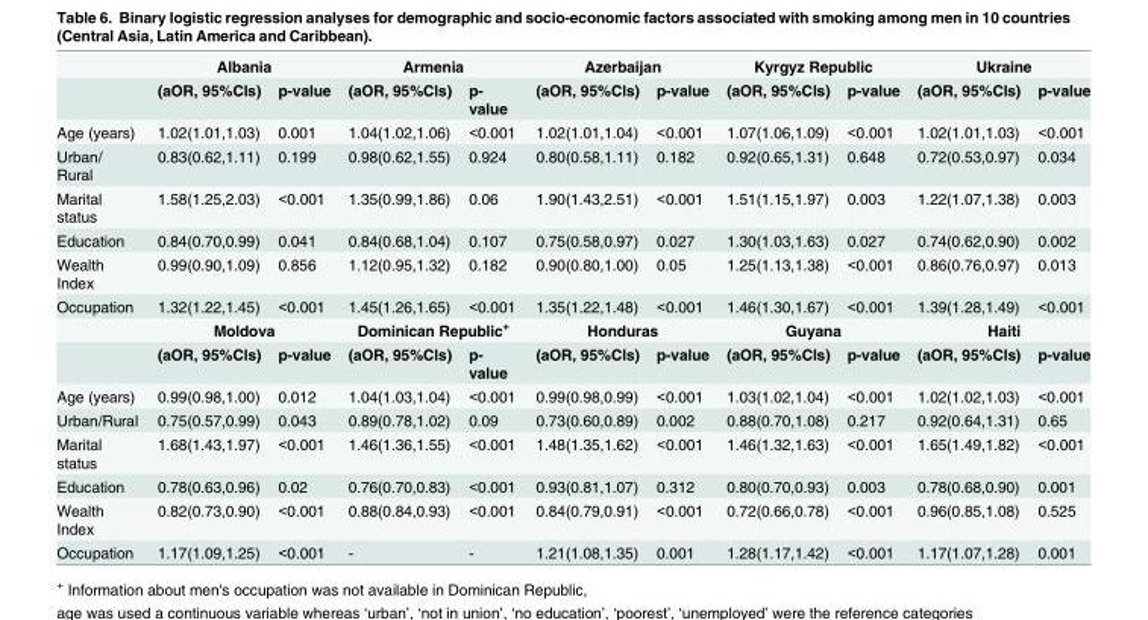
<table><thead><tr><td rowspan="2"></td><td colspan="2">Albania</td><td colspan="2">Armenia</td><td colspan="2">Azerbaijan</td><td colspan="2">Kyrgyz Republic</td><td colspan="2">Ukraine</td></tr><tr><td>(aOR, 95%Cls)</td><td>p-value</td><td>(aOR, 95%Cls)</td><td>p- value</td><td>(aOR, 95%Cls)</td><td>p-value</td><td>(aOR, 95%Cls)</td><td>p-value</td><td>(aOR, 95%Cls)</td><td>p-value</td></tr></thead><tbody><tr><td>Age (years)</td><td>1.02(1.01,1.03)</td><td>0.001</td><td>1.04(1.02,1.06)</td><td>&lt;0.001</td><td>1.02(1.01,1.04)</td><td>&lt;0.001</td><td>1.07(1.06,1.09)</td><td>&lt;0.001</td><td>1.02(1.01,1.03)</td><td>&lt;0.001</td></tr><tr><td>Urban/ Rural</td><td>0.83(0.62,1.11)</td><td>0.199</td><td>0.98(0.62,1.55)</td><td>0.924</td><td>0.80(0.58,1.11)</td><td>0.182</td><td>0.92(0.65,1.31)</td><td>0.648</td><td>0.72(0.53,0.97)</td><td>0.034</td></tr><tr><td>Marital status</td><td>1.58(1.25,2.03)</td><td>&lt;0.001</td><td>1.35(0.99,1.86)</td><td>0.06</td><td>1.90(1.43,2.51)</td><td>&lt;0.001</td><td>1.51(1.15,1.97)</td><td>0.003</td><td>1.22(1.07,1.38)</td><td>0.003</td></tr><tr><td>Education</td><td>0.84(0.70,0.99)</td><td>0.041</td><td>0.84(0.68,1.04)</td><td>0.107</td><td>0.75(0.58,0.97)</td><td>0.027</td><td>1.30(1.03,1.63)</td><td>0.027</td><td>0.74(0.62,0.90)</td><td>0.002</td></tr><tr><td>Wealth Index</td><td>0.99(0.90,1.09)</td><td>0.856</td><td>1.12(0.95,1.32)</td><td>0.182</td><td>0.90(0.80,1.00)</td><td>0.05</td><td>1.25(1.13,1.38)</td><td>&lt;0.001</td><td>0.86(0.76,0.97)</td><td>0.013</td></tr><tr><td rowspan="3">Occupation</td><td>1.32(1.22,1.45)</td><td>&lt;0.001</td><td>1.45(1.26,1.65)</td><td>&lt;0.001</td><td>1.35(1.22,1.48)</td><td>&lt;0.001</td><td>1.46(1.30,1.67)</td><td>&lt;0.001</td><td>1.39(1.28,1.49)</td><td>&lt;0.001</td></tr><tr><td colspan="2">Moldova</td><td colspan="2">Dominican Republic<sup>+</sup></td><td colspan="2">Honduras</td><td colspan="2">Guyana</td><td colspan="2">Haiti</td></tr><tr><td>(aOR, 95%Cls)</td><td>p-value</td><td>(aOR, 95%Cls)</td><td>p- value</td><td>(aOR, 95%Cls)</td><td>p-value</td><td>(aOR, 95%Cls)</td><td>p-value</td><td>(aOR, 95%Cls)</td><td>p-value</td></tr><tr><td>Age (years)</td><td>0.99(0.98,1.00)</td><td>0.012</td><td>1.04(1.03,1.04)</td><td>&lt;0.001</td><td>0.99(0.98,0.99)</td><td>&lt;0.001</td><td>1.03(1.02,1.04)</td><td>&lt;0.001</td><td>1.02(1.02,1.03)</td><td>&lt;0.001</td></tr><tr><td>Urban/Rural</td><td>0.75(0.57,0.99)</td><td>0.043</td><td>0.89(0.78,1.02)</td><td>0.09</td><td>0.73(0.60,0.89)</td><td>0.002</td><td>0.88(0.70,1.08)</td><td>0.217</td><td>0.92(0.64,1.31)</td><td>0.65</td></tr><tr><td>Marital status</td><td>1.68(1.43,1.97)</td><td>&lt;0.001</td><td>1.46(1.36,1.55)</td><td>&lt;0.001</td><td>1.48(1.35,1.62)</td><td>&lt;0.001</td><td>1.46(1.32,1.63)</td><td>&lt;0.001</td><td>1.65(1.49,1.82)</td><td>&lt;0.001</td></tr><tr><td>Education</td><td>0.78(0.63,0.96)</td><td>0.02</td><td>0.76(0.70,0.83)</td><td>&lt;0.001</td><td>0.93(0.81,1.07)</td><td>0.312</td><td>0.80(0.70,0.93)</td><td>0.003</td><td>0.78(0.68,0.90)</td><td>0.001</td></tr><tr><td>Wealth Index</td><td>0.82(0.73,0.90)</td><td>&lt;0.001</td><td>0.88(0.84,0.93)</td><td>&lt;0.001</td><td>0.84(0.79,0.91)</td><td>&lt;0.001</td><td>0.72(0.66,0.78)</td><td>&lt;0.001</td><td>0.96(0.85,1.08)</td><td>0.525</td></tr><tr><td>Occupation</td><td>1.17(1.09,1.25)</td><td>&lt;0.001</td><td>-</td><td>-</td><td>1.21(1.08,1.35)</td><td>0.001</td><td>1.28(1.17,1.42)</td><td>&lt;0.001</td><td>1.17(1.07,1.28)</td><td>0.001</td></tr></tbody></table>